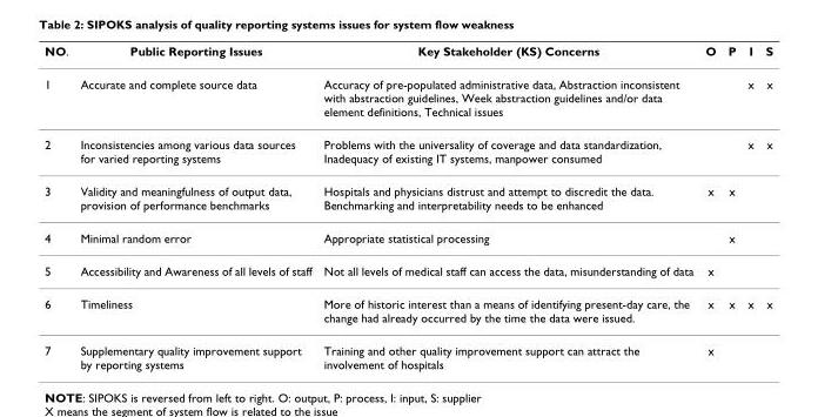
<table><thead><tr><td>NO.</td><td>Public Reporting Issues</td><td>Key Stakeholder (KS) Concerns</td><td>O</td><td>P</td><td>I</td><td>S</td></tr></thead><tbody><tr><td>1</td><td>Accurate and complete source data</td><td>Accuracy of pre-populated administrative data, Abstraction inconsistent with abstraction guidelines, Week abstraction guidelines and/or data element definitions, Technical issues</td><td></td><td></td><td>x</td><td>x</td></tr><tr><td>2</td><td>Inconsistencies among various data sources for varied reporting systems</td><td>Problems with the universality of coverage and data standardization, Inadequacy of existing IT systems, manpower consumed</td><td></td><td></td><td>x</td><td>x</td></tr><tr><td>3</td><td>Validity and meaningfulness of output data, provision of performance benchmarks</td><td>Hospitals and physicians distrust and attempt to discredit the data. Benchmarking and interpretability needs to be enhanced</td><td>x</td><td>x</td><td></td><td></td></tr><tr><td>4</td><td>Minimal random error</td><td>Appropriate statistical processing</td><td></td><td>x</td><td></td><td></td></tr><tr><td>5</td><td>Accessibility and Awareness of all levels of staff</td><td>Not all levels of medical staff can access the data, misunderstanding of data</td><td>x</td><td></td><td></td><td></td></tr><tr><td>6</td><td>Timeliness</td><td>More of historic interest than a means of identifying present-day care, the change had already occurred by the time the data were issued.</td><td>x</td><td>x</td><td>x</td><td>x</td></tr><tr><td>7</td><td>Supplementary quality improvement support by reporting systems</td><td>Training and other quality improvement support can attract the involvement of hospitals</td><td>x</td><td></td><td></td><td></td></tr></tbody></table>